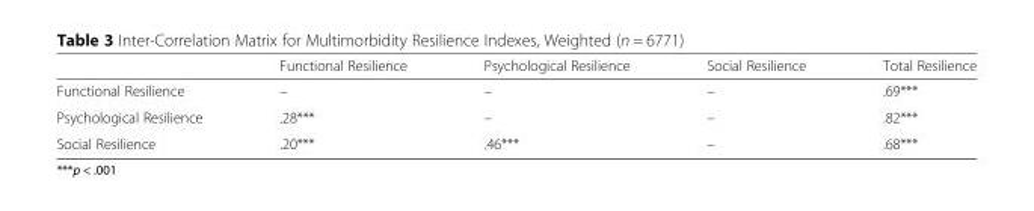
<table><thead><tr><td></td><td>Functional Resilience</td><td>Psychological Resilience</td><td>Social Resilience</td><td>Total Resilience</td></tr></thead><tbody><tr><td>Functional Resilience</td><td>–</td><td>–</td><td>–</td><td>.69***</td></tr><tr><td>Psychological Resilience</td><td>.28***</td><td>–</td><td>–</td><td>.82***</td></tr><tr><td>Social Resilience</td><td>.20***</td><td>.46***</td><td>–</td><td>.68***</td></tr></tbody></table>